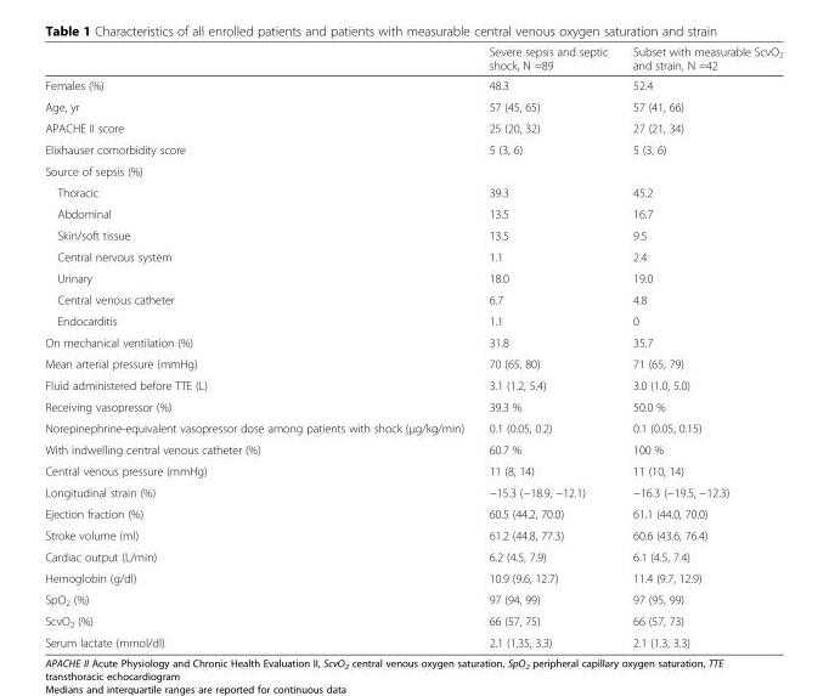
<table><thead><tr><td></td><td>Severe sepsis and septic shock, N =89</td><td>Subset with measurable ScvO<sub>2</sub> and strain, N =42</td></tr></thead><tbody><tr><td>Females (%)</td><td>48.3</td><td>52.4</td></tr><tr><td>Age, yr</td><td>57 (45, 65)</td><td>57 (41, 66)</td></tr><tr><td>APACHE II score</td><td>25 (20, 32)</td><td>27 (21, 34)</td></tr><tr><td>Elixhauser comorbidity score</td><td>5 (3, 6)</td><td>5 (3, 6)</td></tr><tr><td colspan="3">Source of sepsis (%)</td></tr><tr><td>Thoracic</td><td>39.3</td><td>45.2</td></tr><tr><td>Abdominal</td><td>13.5</td><td>16.7</td></tr><tr><td>Skin/soft tissue</td><td>13.5</td><td>9.5</td></tr><tr><td>Central nervous system</td><td>1.1</td><td>2.4</td></tr><tr><td>Urinary</td><td>18.0</td><td>19.0</td></tr><tr><td>Central venous catheter</td><td>6.7</td><td>4.8</td></tr><tr><td>Endocarditis</td><td>1.1</td><td>0</td></tr><tr><td>On mechanical ventilation (%)</td><td>31.8</td><td>35.7</td></tr><tr><td>Mean arterial pressure (mmHg)</td><td>70 (65, 80)</td><td>71 (65, 79)</td></tr><tr><td>Fluid administered before TTE (L)</td><td>3.1 (1.2, 5.4)</td><td>3.0 (1.0, 5.0)</td></tr><tr><td>Receiving vasopressor (%)</td><td>39.3 %</td><td>50.0 %</td></tr><tr><td>Norepinephrine-equivalent vasopressor dose among patients with shock (μg/kg/min)</td><td>0.1 (0.05, 0.2)</td><td>0.1 (0.05, 0.15)</td></tr><tr><td>With indwelling central venous catheter (%)</td><td>60.7 %</td><td>100 %</td></tr><tr><td>Central venous pressure (mmHg)</td><td>11 (8, 14)</td><td>11 (10, 14)</td></tr><tr><td>Longitudinal strain (%)</td><td>−15.3 (−18.9, −12.1)</td><td>−16.3 (−19.5, −12.3)</td></tr><tr><td>Ejection fraction (%)</td><td>60.5 (44.2, 70.0)</td><td>61.1 (44.0, 70.0)</td></tr><tr><td>Stroke volume (ml)</td><td>61.2 (44.8, 77.3)</td><td>60.6 (43.6, 76.4)</td></tr><tr><td>Cardiac output (L/min)</td><td>6.2 (4.5, 7.9)</td><td>6.1 (4.5, 7.4)</td></tr><tr><td>Hemoglobin (g/dl)</td><td>10.9 (9.6, 12.7)</td><td>11.4 (9.7, 12.9)</td></tr><tr><td>SpO<sub>2</sub> (%)</td><td>97 (94, 99)</td><td>97 (95, 99)</td></tr><tr><td>ScvO<sub>2</sub> (%)</td><td>66 (57, 75)</td><td>66 (57, 73)</td></tr><tr><td>Serum lactate (mmol/dl)</td><td>2.1 (1.35, 3.3)</td><td>2.1 (1.3, 3.3)</td></tr></tbody></table>